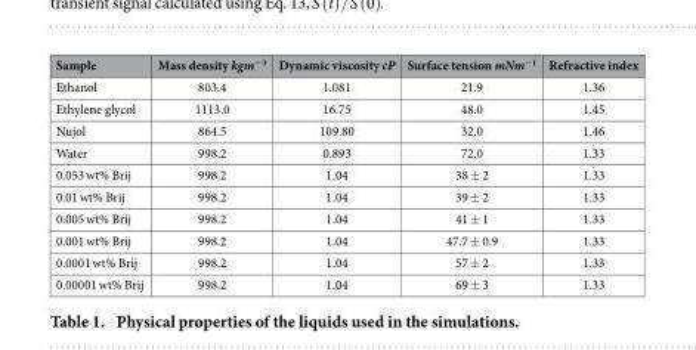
<table><thead><tr><td>Sample</td><td>Mass density kgm<sup>−3</sup></td><td>Dynamic viscosity cP</td><td>Surface tension mNm<sup>−1</sup></td><td>Refractive index</td></tr></thead><tbody><tr><td>Ethanol</td><td>803.4</td><td>1.081</td><td>21.9</td><td>1.36</td></tr><tr><td>Ethylene glycol</td><td>1113.0</td><td>16.75</td><td>48.0</td><td>1.45</td></tr><tr><td>Nujol</td><td>864.5</td><td>109.80</td><td>32.0</td><td>1.46</td></tr><tr><td>Water</td><td>998.2</td><td>0.893</td><td>72.0</td><td>1.33</td></tr><tr><td>0.053 wt% Brij</td><td>998.2</td><td>1.04</td><td>38 ± 2</td><td>1.33</td></tr><tr><td>0.01 wt% Brij</td><td>998.2</td><td>1.04</td><td>39 ± 2</td><td>1.33</td></tr><tr><td>0.005 wt% Brij</td><td>998.2</td><td>1.04</td><td>41 ± 1</td><td>1.33</td></tr><tr><td>0.001 wt% Brij</td><td>998.2</td><td>1.04</td><td>47.7 ± 0.9</td><td>1.33</td></tr><tr><td>0.0001 wt% Brij</td><td>998.2</td><td>1.04</td><td>57 ± 2</td><td>1.33</td></tr><tr><td>0.00001 wt% Brij</td><td>998.2</td><td>1.04</td><td>69 ± 3</td><td>1.33</td></tr></tbody></table>